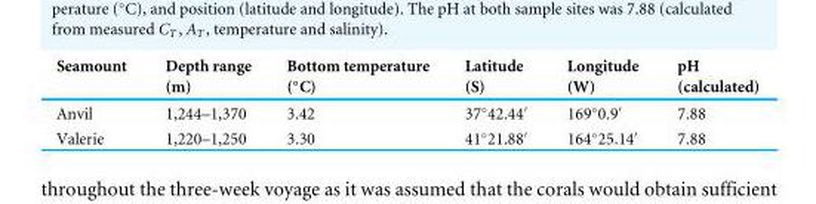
<table><thead><tr><td>Seamount</td><td>Depth range (m)</td><td>Bottom temperature (◦C)</td><td>Latitude (S)</td><td>Longitude (W)</td><td>pH (calculated)</td></tr></thead><tbody><tr><td>Anvil</td><td>1,244–1,370</td><td>3.42</td><td>37◦42.44′</td><td>169◦0.9′</td><td>7.88</td></tr><tr><td>Valerie</td><td>1,220–1,250</td><td>3.30</td><td>41◦21.88′</td><td>164◦25.14′</td><td>7.88</td></tr></tbody></table>